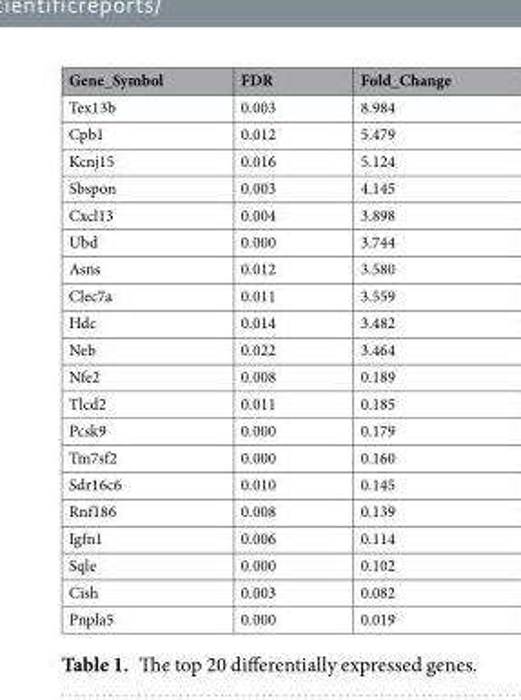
<table><thead><tr><td>Gene_Symbol</td><td>FDR</td><td>Fold_Change</td></tr></thead><tbody><tr><td>Tex13b</td><td>0.003</td><td>8.984</td></tr><tr><td>Cpb1</td><td>0.012</td><td>5.479</td></tr><tr><td>Kcnj15</td><td>0.016</td><td>5.124</td></tr><tr><td>Sbspon</td><td>0.003</td><td>4.145</td></tr><tr><td>Cxcl13</td><td>0.004</td><td>3.898</td></tr><tr><td>Ubd</td><td>0.000</td><td>3.744</td></tr><tr><td>Asns</td><td>0.012</td><td>3.580</td></tr><tr><td>Clec7a</td><td>0.011</td><td>3.559</td></tr><tr><td>Hdc</td><td>0.014</td><td>3.482</td></tr><tr><td>Neb</td><td>0.022</td><td>3.464</td></tr><tr><td>Nfe2</td><td>0.008</td><td>0.189</td></tr><tr><td>Tlcd2</td><td>0.011</td><td>0.185</td></tr><tr><td>Pcsk9</td><td>0.000</td><td>0.179</td></tr><tr><td>Tm7sf2</td><td>0.000</td><td>0.160</td></tr><tr><td>Sdr16c6</td><td>0.010</td><td>0.145</td></tr><tr><td>Rnf186</td><td>0.008</td><td>0.139</td></tr><tr><td>Igfn1</td><td>0.006</td><td>0.114</td></tr><tr><td>Sqle</td><td>0.000</td><td>0.102</td></tr><tr><td>Cish</td><td>0.003</td><td>0.082</td></tr><tr><td>Pnpla5</td><td>0.000</td><td>0.019</td></tr></tbody></table>